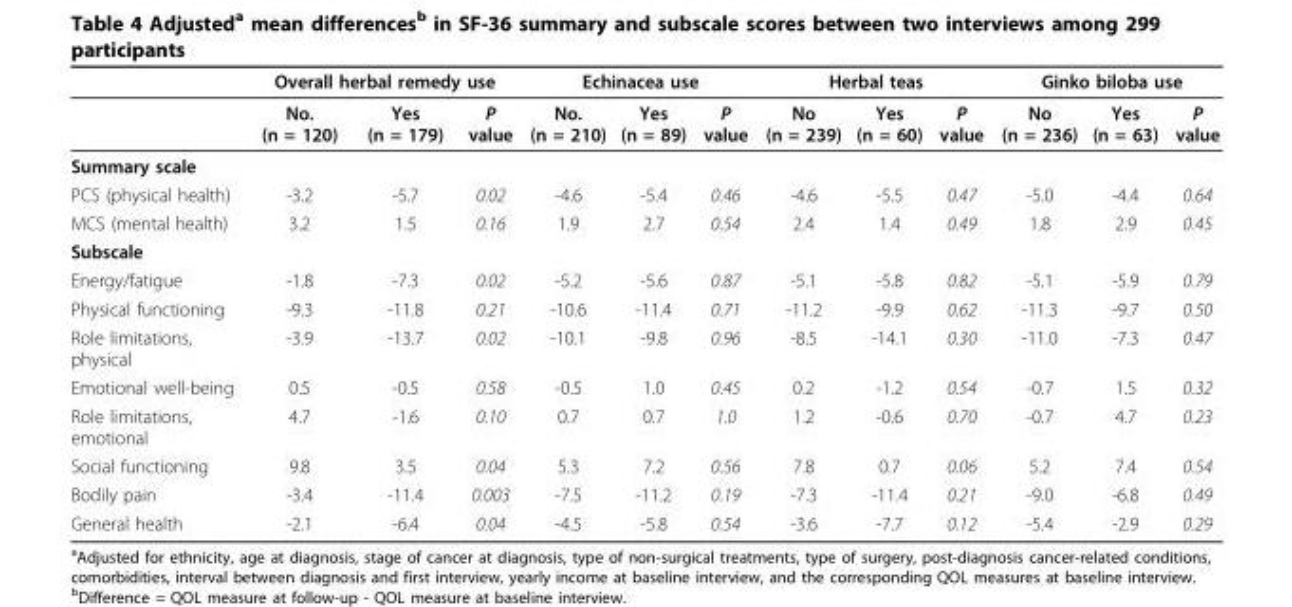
<table><thead><tr><td rowspan="2"></td><td colspan="3">Overall herbal remedy use</td><td colspan="3">Echinacea use</td><td colspan="3">Herbal teas</td><td colspan="3">Ginko biloba use</td></tr><tr><td>No. (n = 120)</td><td>Yes (n = 179)</td><td>P value</td><td>No. (n = 210)</td><td>Yes (n = 89)</td><td>P value</td><td>No (n = 239)</td><td>Yes (n = 60)</td><td>P value</td><td>No (n = 236)</td><td>Yes (n = 63)</td><td>P value</td></tr></thead><tbody><tr><td colspan="13">Summary scale</td></tr><tr><td>PCS (physical health)</td><td>-3.2</td><td>-5.7</td><td>0.02</td><td>-4.6</td><td>-5.4</td><td>0.46</td><td>-4.6</td><td>-5.5</td><td>0.47</td><td>-5.0</td><td>-4.4</td><td>0.64</td></tr><tr><td>MCS (mental health)</td><td>3.2</td><td>1.5</td><td>0.16</td><td>1.9</td><td>2.7</td><td>0.54</td><td>2.4</td><td>1.4</td><td>0.49</td><td>1.8</td><td>2.9</td><td>0.45</td></tr><tr><td colspan="13">Subscale</td></tr><tr><td>Energy/fatigue</td><td>-1.8</td><td>-7.3</td><td>0.02</td><td>-5.2</td><td>-5.6</td><td>0.87</td><td>-5.1</td><td>-5.8</td><td>0.82</td><td>-5.1</td><td>-5.9</td><td>0.79</td></tr><tr><td>Physical functioning</td><td>-9.3</td><td>-11.8</td><td>0.21</td><td>-10.6</td><td>-11.4</td><td>0.71</td><td>-11.2</td><td>-9.9</td><td>0.62</td><td>-11.3</td><td>-9.7</td><td>0.50</td></tr><tr><td>Role limitations, physical</td><td>-3.9</td><td>-13.7</td><td>0.02</td><td>-10.1</td><td>-9.8</td><td>0.96</td><td>-8.5</td><td>-14.1</td><td>0.30</td><td>-11.0</td><td>-7.3</td><td>0.47</td></tr><tr><td>Emotional well-being</td><td>0.5</td><td>-0.5</td><td>0.58</td><td>-0.5</td><td>1.0</td><td>0.45</td><td>0.2</td><td>-1.2</td><td>0.54</td><td>-0.7</td><td>1.5</td><td>0.32</td></tr><tr><td>Role limitations, emotional</td><td>4.7</td><td>-1.6</td><td>0.10</td><td>0.7</td><td>0.7</td><td>1.0</td><td>1.2</td><td>-0.6</td><td>0.70</td><td>-0.7</td><td>4.7</td><td>0.23</td></tr><tr><td>Social functioning</td><td>9.8</td><td>3.5</td><td>0.04</td><td>5.3</td><td>7.2</td><td>0.56</td><td>7.8</td><td>0.7</td><td>0.06</td><td>5.2</td><td>7.4</td><td>0.54</td></tr><tr><td>Bodily pain</td><td>-3.4</td><td>-11.4</td><td>0.003</td><td>-7.5</td><td>-11.2</td><td>0.19</td><td>-7.3</td><td>-11.4</td><td>0.21</td><td>-9.0</td><td>-6.8</td><td>0.49</td></tr><tr><td>General health</td><td>-2.1</td><td>-6.4</td><td>0.04</td><td>-4.5</td><td>-5.8</td><td>0.54</td><td>-3.6</td><td>-7.7</td><td>0.12</td><td>-5.4</td><td>-2.9</td><td>0.29</td></tr></tbody></table>